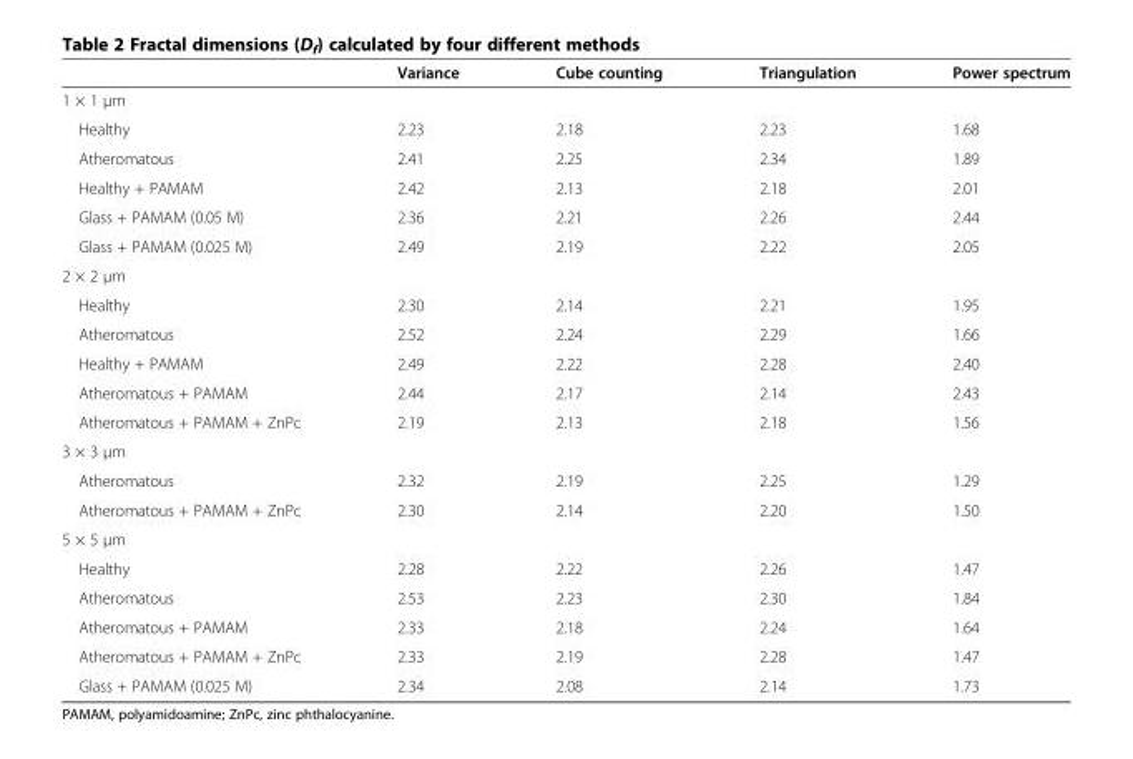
<table><thead><tr><td></td><td>Variance</td><td>Cube counting</td><td>Triangulation</td><td>Power spectrum</td></tr></thead><tbody><tr><td colspan="5">1 × 1 μm</td></tr><tr><td>Healthy</td><td>2.23</td><td>2.18</td><td>2.23</td><td>1.68</td></tr><tr><td>Atheromatous</td><td>2.41</td><td>2.25</td><td>2.34</td><td>1.89</td></tr><tr><td>Healthy + PAMAM</td><td>2.42</td><td>2.13</td><td>2.18</td><td>2.01</td></tr><tr><td>Glass + PAMAM (0.05 M)</td><td>2.36</td><td>2.21</td><td>2.26</td><td>2.44</td></tr><tr><td>Glass + PAMAM (0.025 M)</td><td>2.49</td><td>2.19</td><td>2.22</td><td>2.05</td></tr><tr><td colspan="5">2 × 2 μm</td></tr><tr><td>Healthy</td><td>2.30</td><td>2.14</td><td>2.21</td><td>1.95</td></tr><tr><td>Atheromatous</td><td>2.52</td><td>2.24</td><td>2.29</td><td>1.66</td></tr><tr><td>Healthy + PAMAM</td><td>2.49</td><td>2.22</td><td>2.28</td><td>2.40</td></tr><tr><td>Atheromatous + PAMAM</td><td>2.44</td><td>2.17</td><td>2.14</td><td>2.43</td></tr><tr><td>Atheromatous + PAMAM + ZnPc</td><td>2.19</td><td>2.13</td><td>2.18</td><td>1.56</td></tr><tr><td colspan="5">3 × 3 μm</td></tr><tr><td>Atheromatous</td><td>2.32</td><td>2.19</td><td>2.25</td><td>1.29</td></tr><tr><td>Atheromatous + PAMAM + ZnPc</td><td>2.30</td><td>2.14</td><td>2.20</td><td>1.50</td></tr><tr><td colspan="5">5 × 5 μm</td></tr><tr><td>Healthy</td><td>2.28</td><td>2.22</td><td>2.26</td><td>1.47</td></tr><tr><td>Atheromatous</td><td>2.53</td><td>2.23</td><td>2.30</td><td>1.84</td></tr><tr><td>Atheromatous + PAMAM</td><td>2.33</td><td>2.18</td><td>2.24</td><td>1.64</td></tr><tr><td>Atheromatous + PAMAM + ZnPc</td><td>2.33</td><td>2.19</td><td>2.28</td><td>1.47</td></tr><tr><td>Glass + PAMAM (0.025 M)</td><td>2.34</td><td>2.08</td><td>2.14</td><td>1.73</td></tr></tbody></table>